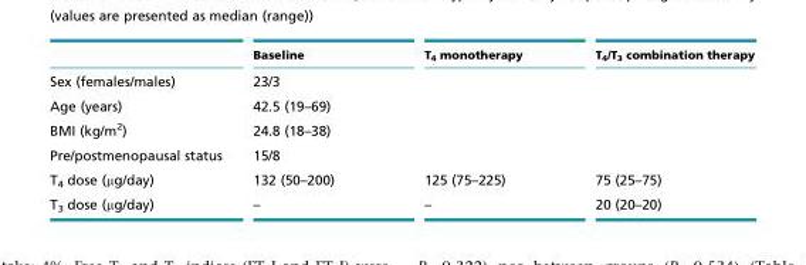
<table><thead><tr><td></td><td>Baseline</td><td>T<sub>4</sub> monotherapy</td><td>T<sub>4</sub>/T<sub>3</sub> combination therapy</td></tr></thead><tbody><tr><td>Sex (females/males)</td><td>23/3</td><td></td><td></td></tr><tr><td>Age (years)</td><td>42.5 (19–69)</td><td></td><td></td></tr><tr><td>BMI (kg/m<sup>2</sup>)</td><td>24.8 (18–38)</td><td></td><td></td></tr><tr><td>Pre/postmenopausal status</td><td>15/8</td><td></td><td></td></tr><tr><td>T<sub>4</sub> dose (μg/day)</td><td>132 (50–200)</td><td>125 (75–225)</td><td>75 (25–75)</td></tr><tr><td>T<sub>3</sub> dose (μg/day)</td><td>–</td><td>–</td><td>20 (20–20)</td></tr></tbody></table>